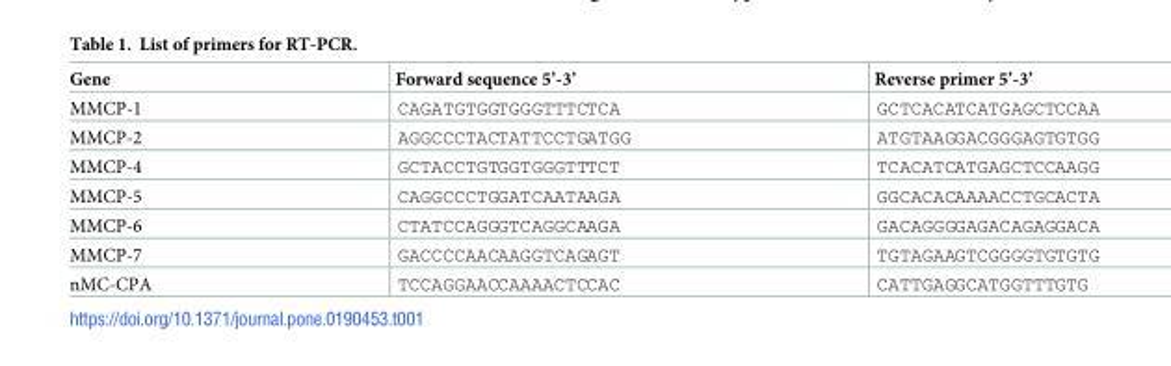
<table><thead><tr><td>Gene</td><td>Forward sequence 5’-3’</td><td>Reverse primer 5’-3’</td></tr></thead><tbody><tr><td>MMCP-1</td><td>CAGATGTGGTGGGTTTCTCA</td><td>GCTCACATCATGAGCTCCAA</td></tr><tr><td>MMCP-2</td><td>AGGCCCTACTATTCCTGATGG</td><td>ATGTAAGGACGGGAGTGTGG</td></tr><tr><td>MMCP-4</td><td>GCTACCTGTGGTGGGTTTCT</td><td>TCACATCATGAGCTCCAAGG</td></tr><tr><td>MMCP-5</td><td>CAGGCCCTGGATCAATAAGA</td><td>GGCACACAAAACCTGCACTA</td></tr><tr><td>MMCP-6</td><td>CTATCCAGGGTCAGGCAAGA</td><td>GACAGGGGAGACAGAGGACA</td></tr><tr><td>MMCP-7</td><td>GACCCCAACAAGGTCAGAGT</td><td>TGTAGAAGTCGGGGTGTGTG</td></tr><tr><td>nMC-CPA</td><td>TCCAGGAACCAAAACTCCAC</td><td>CATTGAGGCATGGTTTGTG</td></tr></tbody></table>